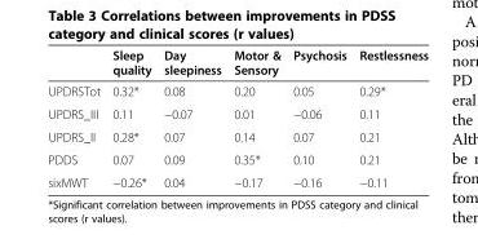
<table><thead><tr><td></td><td>Sleep quality</td><td>Day sleepiness</td><td>Motor &amp; Sensory</td><td>Psychosis</td><td>Restlessness</td></tr></thead><tbody><tr><td>UPDRSTot</td><td>0.32*</td><td>0.08</td><td>0.20</td><td>0.05</td><td>0.29*</td></tr><tr><td>UPDRS_III</td><td>0.11</td><td>−0.07</td><td>0.01</td><td>−0.06</td><td>0.11</td></tr><tr><td>UPDRS_II</td><td>0.28*</td><td>0.07</td><td>0.14</td><td>0.07</td><td>0.21</td></tr><tr><td>PDDS</td><td>0.07</td><td>0.09</td><td>0.35*</td><td>0.10</td><td>0.21</td></tr><tr><td>sixMWT</td><td>−0.26*</td><td>0.04</td><td>−0.17</td><td>−0.16</td><td>−0.11</td></tr></tbody></table>